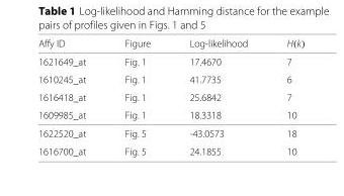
<table><thead><tr><td>Affy ID</td><td>Figure</td><td>Log-likelihood</td><td>H(k)</td></tr></thead><tbody><tr><td>1621649_at</td><td>Fig. 1</td><td>17.4670</td><td>7</td></tr><tr><td>1610245_at</td><td>Fig. 1</td><td>41.7735</td><td>6</td></tr><tr><td>1616418_at</td><td>Fig. 1</td><td>25.6842</td><td>7</td></tr><tr><td>1609985_at</td><td>Fig. 1</td><td>18.3318</td><td>10</td></tr><tr><td>1622520_at</td><td>Fig. 5</td><td>-43.0573</td><td>18</td></tr><tr><td>1616700_at</td><td>Fig. 5</td><td>24.1855</td><td>10</td></tr></tbody></table>